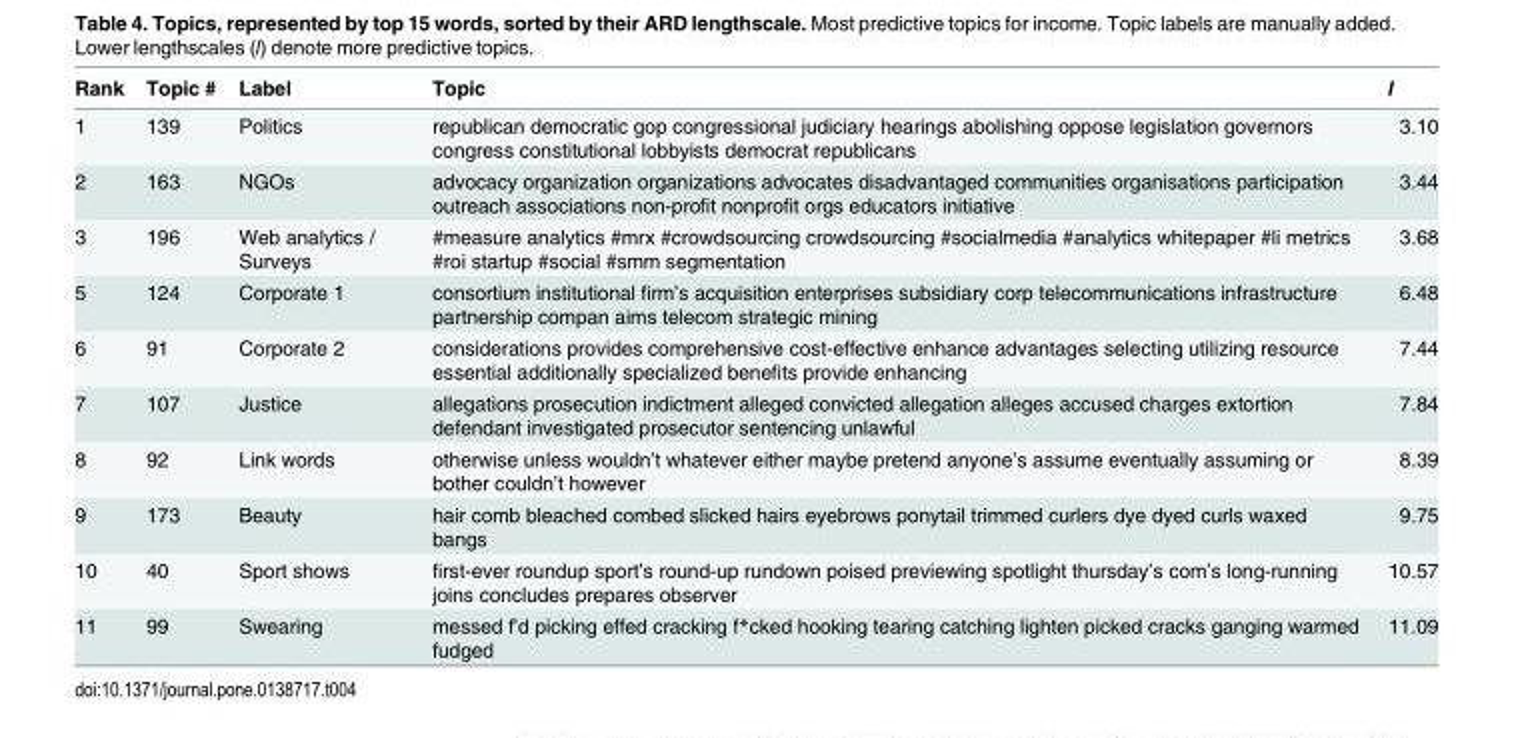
<table><thead><tr><td>Rank</td><td>Topic #</td><td>Label</td><td>Topic</td><td>l</td></tr></thead><tbody><tr><td>1</td><td>139</td><td>Politics</td><td>republican democratic gop congressional judiciary hearings abolishing oppose legislation governors congress constitutional lobbyists democrat republicans</td><td>3.10</td></tr><tr><td>2</td><td>163</td><td>NGOs</td><td>advocacy organization organizations advocates disadvantaged communities organisations participation outreach associations non-profit nonprofit orgs educators initiative</td><td>3.44</td></tr><tr><td>3</td><td>196</td><td>Web analytics / Surveys</td><td>#measure analytics #mrx #crowdsourcing crowdsourcing #socialmedia #analytics whitepaper #li metrics #roi startup #social #smm segmentation</td><td>3.68</td></tr><tr><td>5</td><td>124</td><td>Corporate 1</td><td>consortium institutional firm’s acquisition enterprises subsidiary corp telecommunications infrastructure partnership compan aims telecom strategic mining</td><td>6.48</td></tr><tr><td>6</td><td>91</td><td>Corporate 2</td><td>considerations provides comprehensive cost-effective enhance advantages selecting utilizing resource essential additionally specialized benefits provide enhancing</td><td>7.44</td></tr><tr><td>7</td><td>107</td><td>Justice</td><td>allegations prosecution indictment alleged convicted allegation alleges accused charges extortion defendant investigated prosecutor sentencing unlawful</td><td>7.84</td></tr><tr><td>8</td><td>92</td><td>Link words</td><td>otherwise unless wouldn’t whatever either maybe pretend anyone’s assume eventually assuming or bother couldn’t however</td><td>8.39</td></tr><tr><td>9</td><td>173</td><td>Beauty</td><td>hair comb bleached combed slicked hairs eyebrows ponytail trimmed curlers dye dyed curls waxed bangs</td><td>9.75</td></tr><tr><td>10</td><td>40</td><td>Sport shows</td><td>first-ever roundup sport’s round-up rundown poised previewing spotlight thursday’s com’s long-running joins concludes prepares observer</td><td>10.57</td></tr><tr><td>11</td><td>99</td><td>Swearing</td><td>messed f’d picking effed cracking f*cked hooking tearing catching lighten picked cracks ganging warmed fudged</td><td>11.09</td></tr></tbody></table>